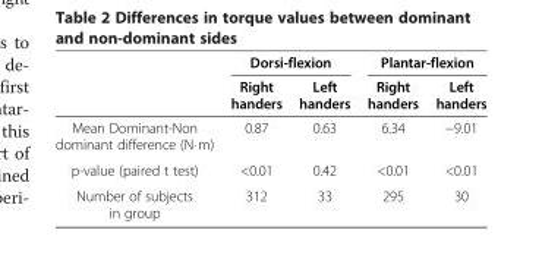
<table><thead><tr><td rowspan="2"></td><td colspan="2">Dorsi-flexion</td><td colspan="2">Plantar-flexion</td></tr><tr><td>Right handers</td><td>Left handers</td><td>Right handers</td><td>Left handers</td></tr></thead><tbody><tr><td>Mean Dominant-Non dominant difference (N⋅m)</td><td>0.87</td><td>0.63</td><td>6.34</td><td>−9.01</td></tr><tr><td>p-value (paired t test)</td><td>&lt;0.01</td><td>0.42</td><td>&lt;0.01</td><td>&lt;0.01</td></tr><tr><td>Number of subjects in group</td><td>312</td><td>33</td><td>295</td><td>30</td></tr></tbody></table>